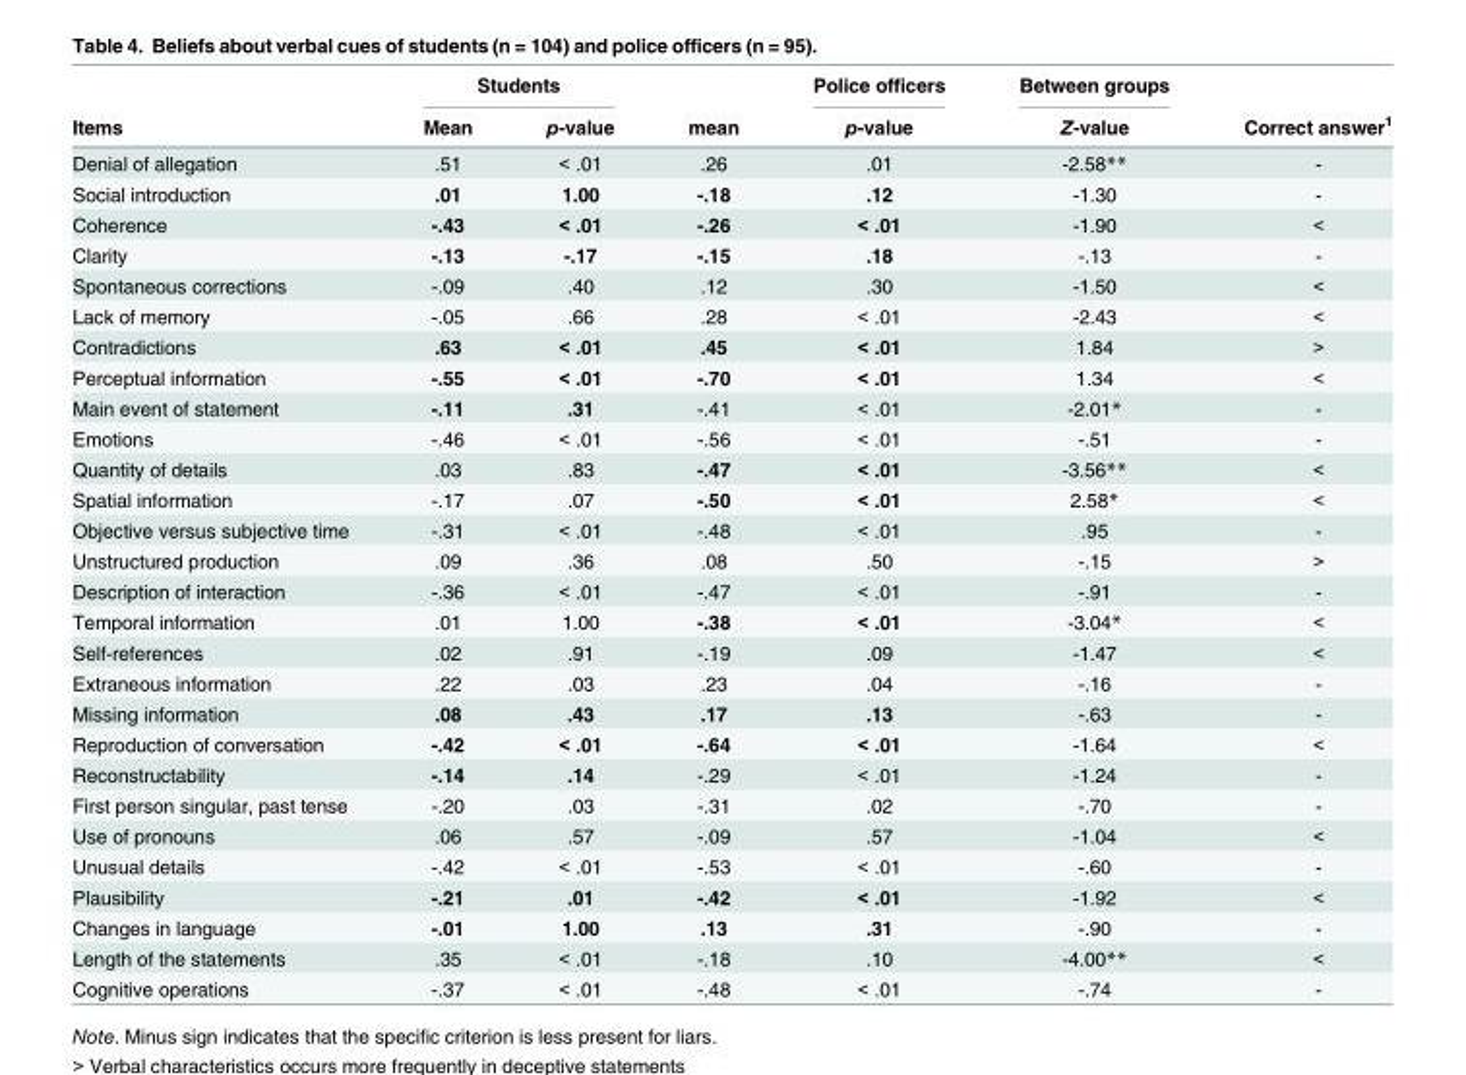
<table><thead><tr><td rowspan="2">Items</td><td colspan="2">Students</td><td rowspan="2">mean</td><td rowspan="2">Police officers p-value</td><td rowspan="2">Between groups Z-value</td><td rowspan="2">Correct answer<sup>1</sup></td></tr><tr><td>Mean</td><td>p-value</td></tr></thead><tbody><tr><td>Denial of allegation</td><td>.51</td><td>&lt; .01</td><td>.26</td><td>.01</td><td>-2.58**</td><td>-</td></tr><tr><td>Social introduction</td><td>.01</td><td>1.00</td><td>-.18</td><td>.12</td><td>-1.30</td><td>-</td></tr><tr><td>Coherence</td><td>-.43</td><td>&lt; .01</td><td>-.26</td><td>&lt; .01</td><td>-1.90</td><td>&lt;</td></tr><tr><td>Clarity</td><td>-.13</td><td>-.17</td><td>-.15</td><td>.18</td><td>-.13</td><td>-</td></tr><tr><td>Spontaneous corrections</td><td>-.09</td><td>.40</td><td>.12</td><td>.30</td><td>-1.50</td><td>&lt;</td></tr><tr><td>Lack of memory</td><td>-.05</td><td>.66</td><td>.28</td><td>&lt; .01</td><td>-2.43</td><td>&lt;</td></tr><tr><td>Contradictions</td><td>.63</td><td>&lt; .01</td><td>.45</td><td>&lt; .01</td><td>1.84</td><td>&gt;</td></tr><tr><td>Perceptual information</td><td>-.55</td><td>&lt; .01</td><td>-.70</td><td>&lt; .01</td><td>1.34</td><td>&lt;</td></tr><tr><td>Main event of statement</td><td>-.11</td><td>.31</td><td>-.41</td><td>&lt; .01</td><td>-2.01*</td><td>-</td></tr><tr><td>Emotions</td><td>-.46</td><td>&lt; .01</td><td>-.56</td><td>&lt; .01</td><td>-.51</td><td>-</td></tr><tr><td>Quantity of details</td><td>.03</td><td>.83</td><td>-.47</td><td>&lt; .01</td><td>-3.56**</td><td>&lt;</td></tr><tr><td>Spatial information</td><td>-.17</td><td>.07</td><td>-.50</td><td>&lt; .01</td><td>2.58*</td><td>&lt;</td></tr><tr><td>Objective versus subjective time</td><td>-.31</td><td>&lt; .01</td><td>-.48</td><td>&lt; .01</td><td>.95</td><td>-</td></tr><tr><td>Unstructured production</td><td>.09</td><td>.36</td><td>.08</td><td>.50</td><td>-.15</td><td>&gt;</td></tr><tr><td>Description of interaction</td><td>-.36</td><td>&lt; .01</td><td>-.47</td><td>&lt; .01</td><td>-.91</td><td>-</td></tr><tr><td>Temporal information</td><td>.01</td><td>1.00</td><td>-.38</td><td>&lt; .01</td><td>-3.04*</td><td>&lt;</td></tr><tr><td>Self-references</td><td>.02</td><td>.91</td><td>-.19</td><td>.09</td><td>-1.47</td><td>&lt;</td></tr><tr><td>Extraneous information</td><td>.22</td><td>.03</td><td>.23</td><td>.04</td><td>-.16</td><td>-</td></tr><tr><td>Missing information</td><td>.08</td><td>.43</td><td>.17</td><td>.13</td><td>-.63</td><td>-</td></tr><tr><td>Reproduction of conversation</td><td>-.42</td><td>&lt; .01</td><td>-.64</td><td>&lt; .01</td><td>-1.64</td><td>&lt;</td></tr><tr><td>Reconstructability</td><td>-.14</td><td>.14</td><td>-.29</td><td>&lt; .01</td><td>-1.24</td><td>-</td></tr><tr><td>First person singular, past tense</td><td>-.20</td><td>.03</td><td>-.31</td><td>.02</td><td>-.70</td><td>-</td></tr><tr><td>Use of pronouns</td><td>.06</td><td>.57</td><td>-.09</td><td>.57</td><td>-1.04</td><td>&lt;</td></tr><tr><td>Unusual details</td><td>-.42</td><td>&lt; .01</td><td>-.53</td><td>&lt; .01</td><td>-.60</td><td>-</td></tr><tr><td>Plausibility</td><td>-.21</td><td>.01</td><td>-.42</td><td>&lt; .01</td><td>-1.92</td><td>&lt;</td></tr><tr><td>Changes in language</td><td>-.01</td><td>1.00</td><td>.13</td><td>.31</td><td>-.90</td><td>-</td></tr><tr><td>Length of the statements</td><td>.35</td><td>&lt; .01</td><td>-.18</td><td>.10</td><td>-4.00**</td><td>&lt;</td></tr><tr><td>Cognitive operations</td><td>-.37</td><td>&lt; .01</td><td>-.48</td><td>&lt; .01</td><td>-.74</td><td>-</td></tr></tbody></table>